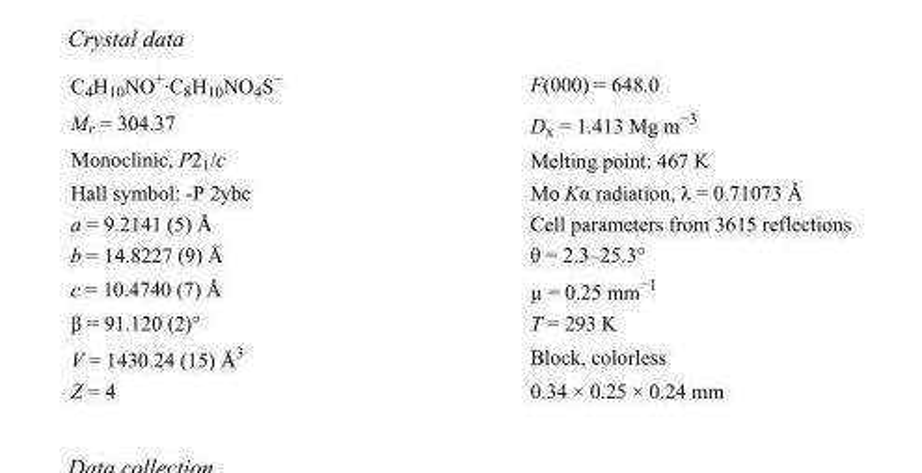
<table><tbody><tr><td>C<sub>4</sub>H<sub>10</sub>NO<sup>+</sup>·C<sub>8</sub>H<sub>10</sub>NO<sub>4</sub>S<sup>−</sup></td><td>F(000) = 648.0</td></tr><tr><td>M<sub>r</sub> = 304.37</td><td>D<sub>x</sub> = 1.413 Mg m<sup>−3</sup></td></tr><tr><td>Monoclinic, P2<sub>1</sub>/c</td><td>Melting point: 467 K</td></tr><tr><td>Hall symbol: -P 2ybc</td><td>Mo Kα radiation, λ = 0.71073 Å</td></tr><tr><td>a = 9.2141 (5) Å</td><td>Cell parameters from 3615 reflections</td></tr><tr><td>b = 14.8227 (9) Å</td><td>θ = 2.3–25.3°</td></tr><tr><td>c = 10.4740 (7) Å</td><td>µ = 0.25 mm<sup>−1</sup></td></tr><tr><td>β = 91.120 (2)°</td><td>T = 293 K</td></tr><tr><td>V = 1430.24 (15) Å<sup>3</sup></td><td>Block, colorless</td></tr><tr><td>Z = 4</td><td>0.34 × 0.25 × 0.24 mm</td></tr></tbody></table>